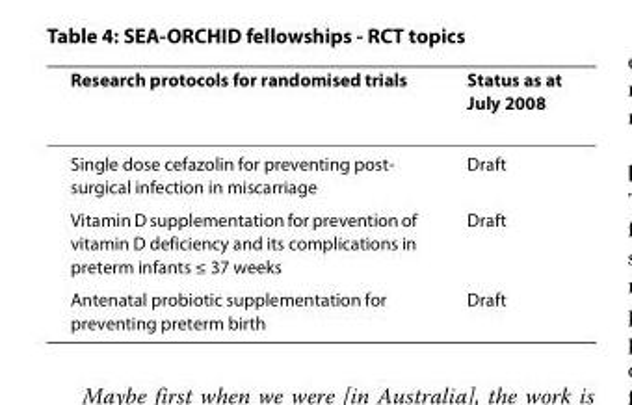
<table><thead><tr><td>Research protocols for randomised trials</td><td>Status as at July 2008</td></tr></thead><tbody><tr><td>Single dose cefazolin for preventing post- surgical infection in miscarriage</td><td>Draft</td></tr><tr><td>Vitamin D supplementation for prevention of vitamin D deficiency and its complications in preterm infants ≤ 37 weeks</td><td>Draft</td></tr><tr><td>Antenatal probiotic supplementation for preventing preterm birth</td><td>Draft</td></tr></tbody></table>